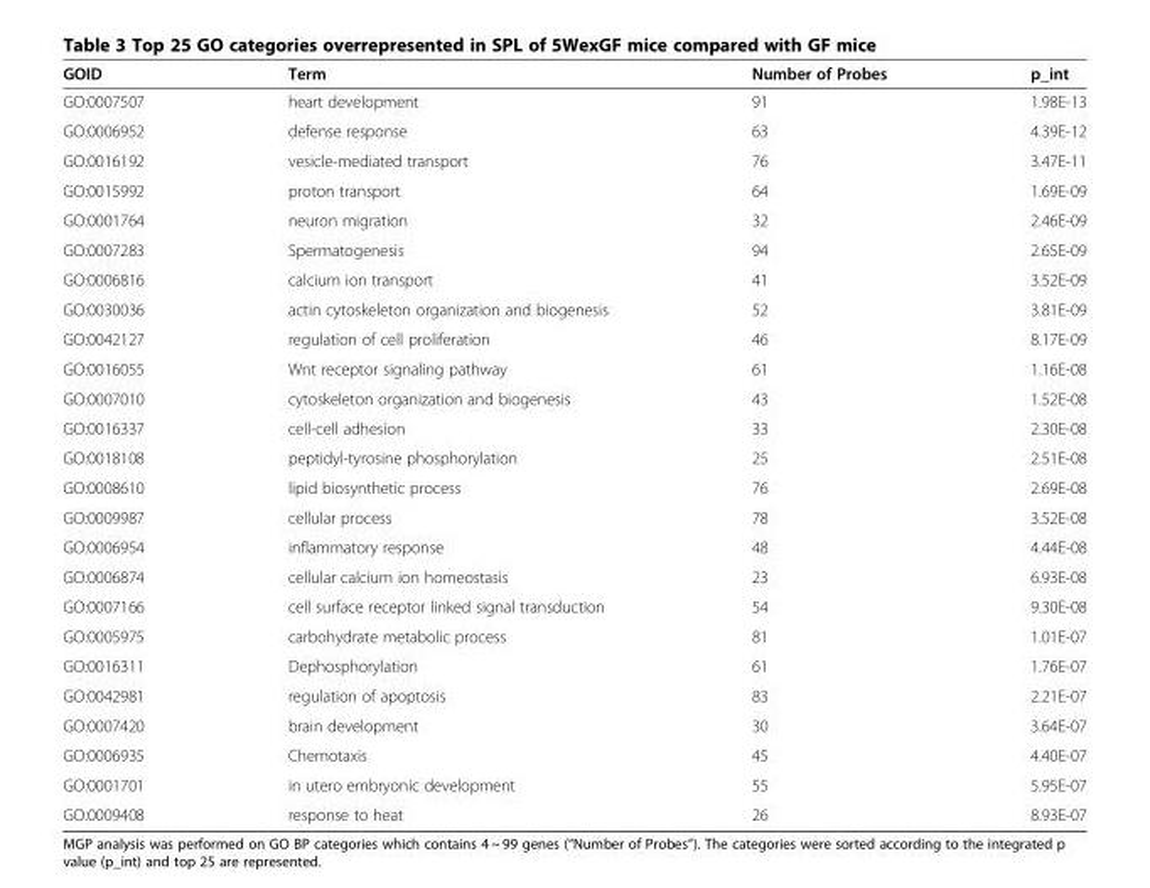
<table><thead><tr><td>GOID</td><td>Term</td><td>Number of Probes</td><td>p_int</td></tr></thead><tbody><tr><td>GO:0007507</td><td>heart development</td><td>91</td><td>1.98E-13</td></tr><tr><td>GO:0006952</td><td>defense response</td><td>63</td><td>4.39E-12</td></tr><tr><td>GO:0016192</td><td>vesicle-mediated transport</td><td>76</td><td>3.47E-11</td></tr><tr><td>GO:0015992</td><td>proton transport</td><td>64</td><td>1.69E-09</td></tr><tr><td>GO:0001764</td><td>neuron migration</td><td>32</td><td>2.46E-09</td></tr><tr><td>GO:0007283</td><td>Spermatogenesis</td><td>94</td><td>2.65E-09</td></tr><tr><td>GO:0006816</td><td>calcium ion transport</td><td>41</td><td>3.52E-09</td></tr><tr><td>GO:0030036</td><td>actin cytoskeleton organization and biogenesis</td><td>52</td><td>3.81E-09</td></tr><tr><td>GO:0042127</td><td>regulation of cell proliferation</td><td>46</td><td>8.17E-09</td></tr><tr><td>GO:0016055</td><td>Wnt receptor signaling pathway</td><td>61</td><td>1.16E-08</td></tr><tr><td>GO:0007010</td><td>cytoskeleton organization and biogenesis</td><td>43</td><td>1.52E-08</td></tr><tr><td>GO:0016337</td><td>cell-cell adhesion</td><td>33</td><td>2.30E-08</td></tr><tr><td>GO:0018108</td><td>peptidyl-tyrosine phosphorylation</td><td>25</td><td>2.51E-08</td></tr><tr><td>GO:0008610</td><td>lipid biosynthetic process</td><td>76</td><td>2.69E-08</td></tr><tr><td>GO:0009987</td><td>cellular process</td><td>78</td><td>3.52E-08</td></tr><tr><td>GO:0006954</td><td>inflammatory response</td><td>48</td><td>4.44E-08</td></tr><tr><td>GO:0006874</td><td>cellular calcium ion homeostasis</td><td>23</td><td>6.93E-08</td></tr><tr><td>GO:0007166</td><td>cell surface receptor linked signal transduction</td><td>54</td><td>9.30E-08</td></tr><tr><td>GO:0005975</td><td>carbohydrate metabolic process</td><td>81</td><td>1.01E-07</td></tr><tr><td>GO:0016311</td><td>Dephosphorylation</td><td>61</td><td>1.76E-07</td></tr><tr><td>GO:0042981</td><td>regulation of apoptosis</td><td>83</td><td>2.21E-07</td></tr><tr><td>GO:0007420</td><td>brain development</td><td>30</td><td>3.64E-07</td></tr><tr><td>GO:0006935</td><td>Chemotaxis</td><td>45</td><td>4.40E-07</td></tr><tr><td>GO:0001701</td><td>in utero embryonic development</td><td>55</td><td>5.95E-07</td></tr><tr><td>GO:0009408</td><td>response to heat</td><td>26</td><td>8.93E-07</td></tr></tbody></table>